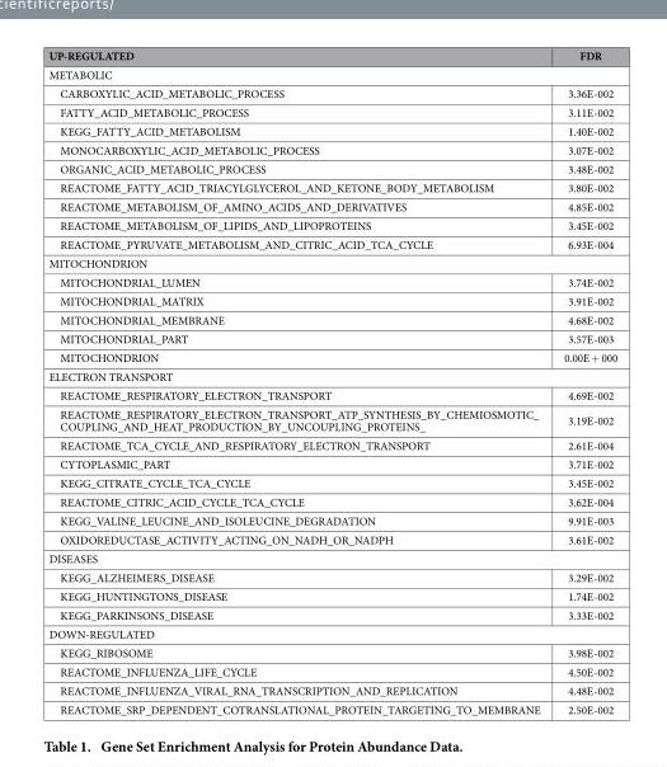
<table><thead><tr><td>UP-REGULATED</td><td>FDR</td></tr></thead><tbody><tr><td colspan="2">METABOLIC</td></tr><tr><td>CARBOXYLIC_ACID_METABOLIC_PROCESS</td><td>3.36E-002</td></tr><tr><td>FATTY_ACID_METABOLIC_PROCESS</td><td>3.11E-002</td></tr><tr><td>KEGG_FATTY_ACID_METABOLISM</td><td>1.40E-002</td></tr><tr><td>MONOCARBOXYLIC_ACID_METABOLIC_PROCESS</td><td>3.07E-002</td></tr><tr><td>ORGANIC_ACID_METABOLIC_PROCESS</td><td>3.48E-002</td></tr><tr><td>REACTOME_FATTY_ACID_TRIACYLGLYCEROL_AND_KETONE_BODY_METABOLISM</td><td>3.80E-002</td></tr><tr><td>REACTOME_METABOLISM_OF_AMINO_ACIDS_AND_DERIVATIVES</td><td>4.85E-002</td></tr><tr><td>REACTOME_METABOLISM_OF_LIPIDS_AND_LIPOPROTEINS</td><td>3.45E-002</td></tr><tr><td>REACTOME_PYRUVATE_METABOLISM_AND_CITRIC_ACID_TCA_CYCLE</td><td>6.93E-004</td></tr><tr><td colspan="2">MITOCHONDRION</td></tr><tr><td>MITOCHONDRIAL_LUMEN</td><td>3.74E-002</td></tr><tr><td>MITOCHONDRIAL_MATRIX</td><td>3.91E-002</td></tr><tr><td>MITOCHONDRIAL_MEMBRANE</td><td>4.68E-002</td></tr><tr><td>MITOCHONDRIAL_PART</td><td>3.57E-003</td></tr><tr><td>MITOCHONDRION</td><td>0.00E + 000</td></tr><tr><td colspan="2">ELECTRON TRANSPORT</td></tr><tr><td>REACTOME_RESPIRATORY_ELECTRON_TRANSPORT</td><td>4.69E-002</td></tr><tr><td>REACTOME_RESPIRATORY_ELECTRON_TRANSPORT_ATP_SYNTHESIS_BY_CHEMIOSMOTIC_ COUPLING_AND_HEAT_PRODUCTION_BY_UNCOUPLING_PROTEINS_</td><td>3.19E-002</td></tr><tr><td>REACTOME_TCA_CYCLE_AND_RESPIRATORY_ELECTRON_TRANSPORT</td><td>2.61E-004</td></tr><tr><td>CYTOPLASMIC_PART</td><td>3.71E-002</td></tr><tr><td>KEGG_CITRATE_CYCLE_TCA_CYCLE</td><td>3.45E-002</td></tr><tr><td>REACTOME_CITRIC_ACID_CYCLE_TCA_CYCLE</td><td>3.62E-004</td></tr><tr><td>KEGG_VALINE_LEUCINE_AND_ISOLEUCINE_DEGRADATION</td><td>9.91E-003</td></tr><tr><td>OXIDOREDUCTASE_ACTIVITY_ACTING_ON_NADH_OR_NADPH</td><td>3.61E-002</td></tr><tr><td colspan="2">DISEASES</td></tr><tr><td>KEGG_ALZHEIMERS_DISEASE</td><td>3.29E-002</td></tr><tr><td>KEGG_HUNTINGTONS_DISEASE</td><td>1.74E-002</td></tr><tr><td>KEGG_PARKINSONS_DISEASE</td><td>3.33E-002</td></tr><tr><td colspan="2">DOWN-REGULATED</td></tr><tr><td>KEGG_RIBOSOME</td><td>3.98E-002</td></tr><tr><td>REACTOME_INFLUENZA_LIFE_CYCLE</td><td>4.50E-002</td></tr><tr><td>REACTOME_INFLUENZA_VIRAL_RNA_TRANSCRIPTION_AND_REPLICATION</td><td>4.48E-002</td></tr><tr><td>REACTOME_SRP_DEPENDENT_COTRANSLATIONAL_PROTEIN_TARGETING_TO_MEMBRANE</td><td>2.50E-002</td></tr></tbody></table>